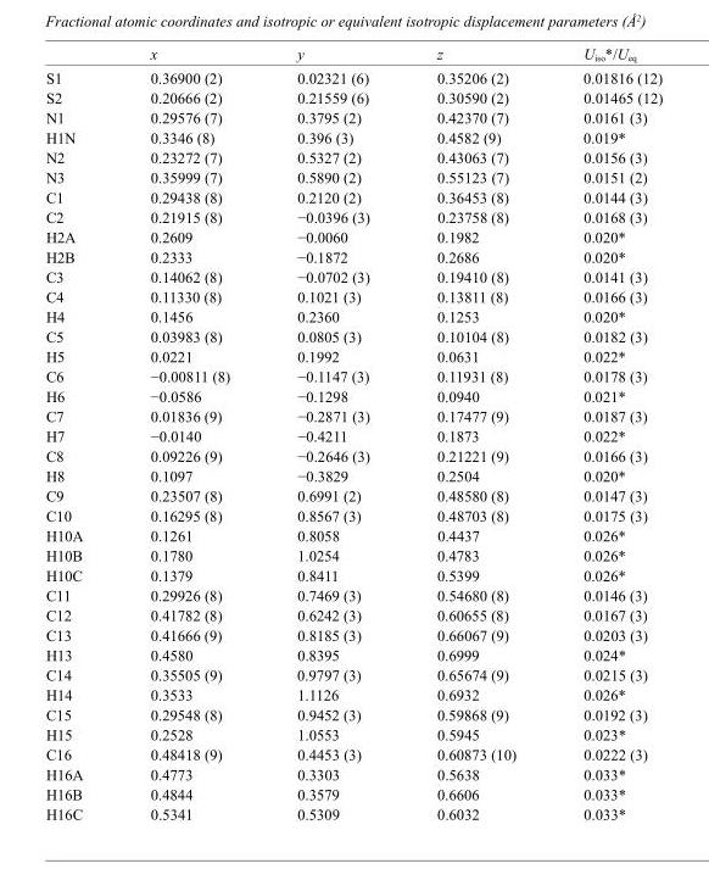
<table><thead><tr><td></td><td>x</td><td>y</td><td>z</td><td>U<sub>iso</sub>*/U<sub>eq</sub></td></tr></thead><tbody><tr><td>S1</td><td>0.36900 (2)</td><td>0.02321 (6)</td><td>0.35206 (2)</td><td>0.01816 (12)</td></tr><tr><td>S2</td><td>0.20666 (2)</td><td>0.21559 (6)</td><td>0.30590 (2)</td><td>0.01465 (12)</td></tr><tr><td>N1</td><td>0.29576 (7)</td><td>0.3795 (2)</td><td>0.42370 (7)</td><td>0.0161 (3)</td></tr><tr><td>H1N</td><td>0.3346 (8)</td><td>0.396 (3)</td><td>0.4582 (9)</td><td>0.019*</td></tr><tr><td>N2</td><td>0.23272 (7)</td><td>0.5327 (2)</td><td>0.43063 (7)</td><td>0.0156 (3)</td></tr><tr><td>N3</td><td>0.35999 (7)</td><td>0.5890 (2)</td><td>0.55123 (7)</td><td>0.0151 (2)</td></tr><tr><td>C1</td><td>0.29438 (8)</td><td>0.2120 (2)</td><td>0.36453 (8)</td><td>0.0144 (3)</td></tr><tr><td>C2</td><td>0.21915 (8)</td><td>−0.0396 (3)</td><td>0.23758 (8)</td><td>0.0168 (3)</td></tr><tr><td>H2A</td><td>0.2609</td><td>−0.0060</td><td>0.1982</td><td>0.020*</td></tr><tr><td>H2B</td><td>0.2333</td><td>−0.1872</td><td>0.2686</td><td>0.020*</td></tr><tr><td>C3</td><td>0.14062 (8)</td><td>−0.0702 (3)</td><td>0.19410 (8)</td><td>0.0141 (3)</td></tr><tr><td>C4</td><td>0.11330 (8)</td><td>0.1021 (3)</td><td>0.13811 (8)</td><td>0.0166 (3)</td></tr><tr><td>H4</td><td>0.1456</td><td>0.2360</td><td>0.1253</td><td>0.020*</td></tr><tr><td>C5</td><td>0.03983 (8)</td><td>0.0805 (3)</td><td>0.10104 (8)</td><td>0.0182 (3)</td></tr><tr><td>H5</td><td>0.0221</td><td>0.1992</td><td>0.0631</td><td>0.022*</td></tr><tr><td>C6</td><td>−0.00811 (8)</td><td>−0.1147 (3)</td><td>0.11931 (8)</td><td>0.0178 (3)</td></tr><tr><td>H6</td><td>−0.0586</td><td>−0.1298</td><td>0.0940</td><td>0.021*</td></tr><tr><td>C7</td><td>0.01836 (9)</td><td>−0.2871 (3)</td><td>0.17477 (9)</td><td>0.0187 (3)</td></tr><tr><td>H7</td><td>−0.0140</td><td>−0.4211</td><td>0.1873</td><td>0.022*</td></tr><tr><td>C8</td><td>0.09226 (9)</td><td>−0.2646 (3)</td><td>0.21221 (9)</td><td>0.0166 (3)</td></tr><tr><td>H8</td><td>0.1097</td><td>−0.3829</td><td>0.2504</td><td>0.020*</td></tr><tr><td>C9</td><td>0.23507 (8)</td><td>0.6991 (2)</td><td>0.48580 (8)</td><td>0.0147 (3)</td></tr><tr><td>C10</td><td>0.16295 (8)</td><td>0.8567 (3)</td><td>0.48703 (8)</td><td>0.0175 (3)</td></tr><tr><td>H10A</td><td>0.1261</td><td>0.8058</td><td>0.4437</td><td>0.026*</td></tr><tr><td>H10B</td><td>0.1780</td><td>1.0254</td><td>0.4783</td><td>0.026*</td></tr><tr><td>H10C</td><td>0.1379</td><td>0.8411</td><td>0.5399</td><td>0.026*</td></tr><tr><td>C11</td><td>0.29926 (8)</td><td>0.7469 (3)</td><td>0.54680 (8)</td><td>0.0146 (3)</td></tr><tr><td>C12</td><td>0.41782 (8)</td><td>0.6242 (3)</td><td>0.60655 (8)</td><td>0.0167 (3)</td></tr><tr><td>C13</td><td>0.41666 (9)</td><td>0.8185 (3)</td><td>0.66067 (9)</td><td>0.0203 (3)</td></tr><tr><td>H13</td><td>0.4580</td><td>0.8395</td><td>0.6999</td><td>0.024*</td></tr><tr><td>C14</td><td>0.35505 (9)</td><td>0.9797 (3)</td><td>0.65674 (9)</td><td>0.0215 (3)</td></tr><tr><td>H14</td><td>0.3533</td><td>1.1126</td><td>0.6932</td><td>0.026*</td></tr><tr><td>C15</td><td>0.29548 (8)</td><td>0.9452 (3)</td><td>0.59868 (9)</td><td>0.0192 (3)</td></tr><tr><td>H15</td><td>0.2528</td><td>1.0553</td><td>0.5945</td><td>0.023*</td></tr><tr><td>C16</td><td>0.48418 (9)</td><td>0.4453 (3)</td><td>0.60873 (10)</td><td>0.0222 (3)</td></tr><tr><td>H16A</td><td>0.4773</td><td>0.3303</td><td>0.5638</td><td>0.033*</td></tr><tr><td>H16B</td><td>0.4844</td><td>0.3579</td><td>0.6606</td><td>0.033*</td></tr><tr><td>H16C</td><td>0.5341</td><td>0.5309</td><td>0.6032</td><td>0.033*</td></tr></tbody></table>